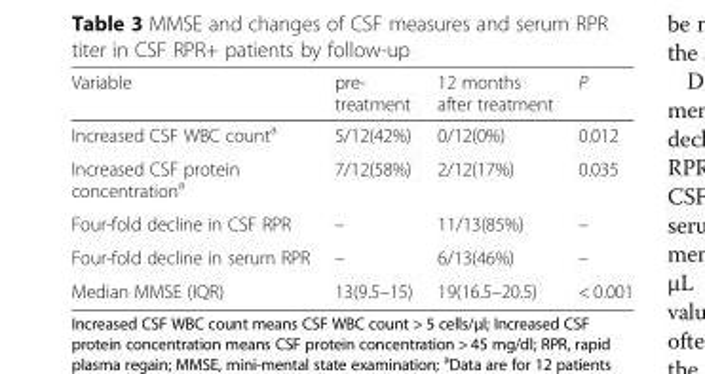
<table><thead><tr><td>Variable</td><td>pre- treatment</td><td>12 months after treatment</td><td>P</td></tr></thead><tbody><tr><td>Increased CSF WBC count<sup>a</sup></td><td>5/12(42%)</td><td>0/12(0%)</td><td>0.012</td></tr><tr><td>Increased CSF protein concentration<sup>a</sup></td><td>7/12(58%)</td><td>2/12(17%)</td><td>0.035</td></tr><tr><td>Four-fold decline in CSF RPR</td><td>–</td><td>11/13(85%)</td><td>–</td></tr><tr><td>Four-fold decline in serum RPR</td><td>–</td><td>6/13(46%)</td><td>–</td></tr><tr><td>Median MMSE (IQR)</td><td>13(9.5–15)</td><td>19(16.5–20.5)</td><td>&lt; 0.001</td></tr></tbody></table>